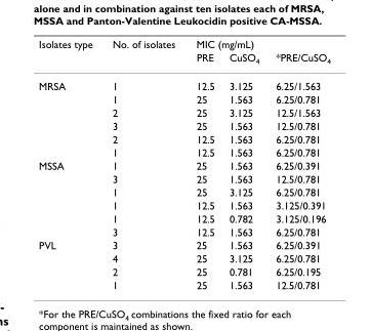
<table><thead><tr><td rowspan="2">Isolates type</td><td rowspan="2">No. of isolates</td><td colspan="2">MIC (mg/mL)</td><td rowspan="2">*PRE/CuSO<sub>4</sub></td></tr><tr><td>PRE</td><td>CuSO<sub>4</sub></td></tr></thead><tbody><tr><td rowspan="6">MRSA</td><td>1</td><td>12.5</td><td>3.125</td><td>6.25/1.563</td></tr><tr><td>1</td><td>25</td><td>1.563</td><td>6.25/0.781</td></tr><tr><td>2</td><td>25</td><td>3.125</td><td>12.5/1.563</td></tr><tr><td>3</td><td>25</td><td>1.563</td><td>12.5/0.781</td></tr><tr><td>2</td><td>12.5</td><td>1.563</td><td>6.25/0.781</td></tr><tr><td>1</td><td>12.5</td><td>1.563</td><td>6.25/0.781</td></tr><tr><td rowspan="6">MSSA</td><td>1</td><td>25</td><td>1.563</td><td>6.25/0.391</td></tr><tr><td>3</td><td>25</td><td>1.563</td><td>12.5/0.781</td></tr><tr><td>1</td><td>25</td><td>3.125</td><td>6.25/0.781</td></tr><tr><td>1</td><td>12.5</td><td>1.563</td><td>3.125/0.391</td></tr><tr><td>1</td><td>12.5</td><td>0.782</td><td>3.125/0.196</td></tr><tr><td>3</td><td>12.5</td><td>1.563</td><td>6.25/0.781</td></tr><tr><td rowspan="4">PVL</td><td>3</td><td>25</td><td>1.563</td><td>6.25/0.391</td></tr><tr><td>4</td><td>25</td><td>3.125</td><td>6.25/0.781</td></tr><tr><td>2</td><td>25</td><td>0.781</td><td>6.25/0.195</td></tr><tr><td>1</td><td>25</td><td>1.563</td><td>12.5/0.781</td></tr></tbody></table>